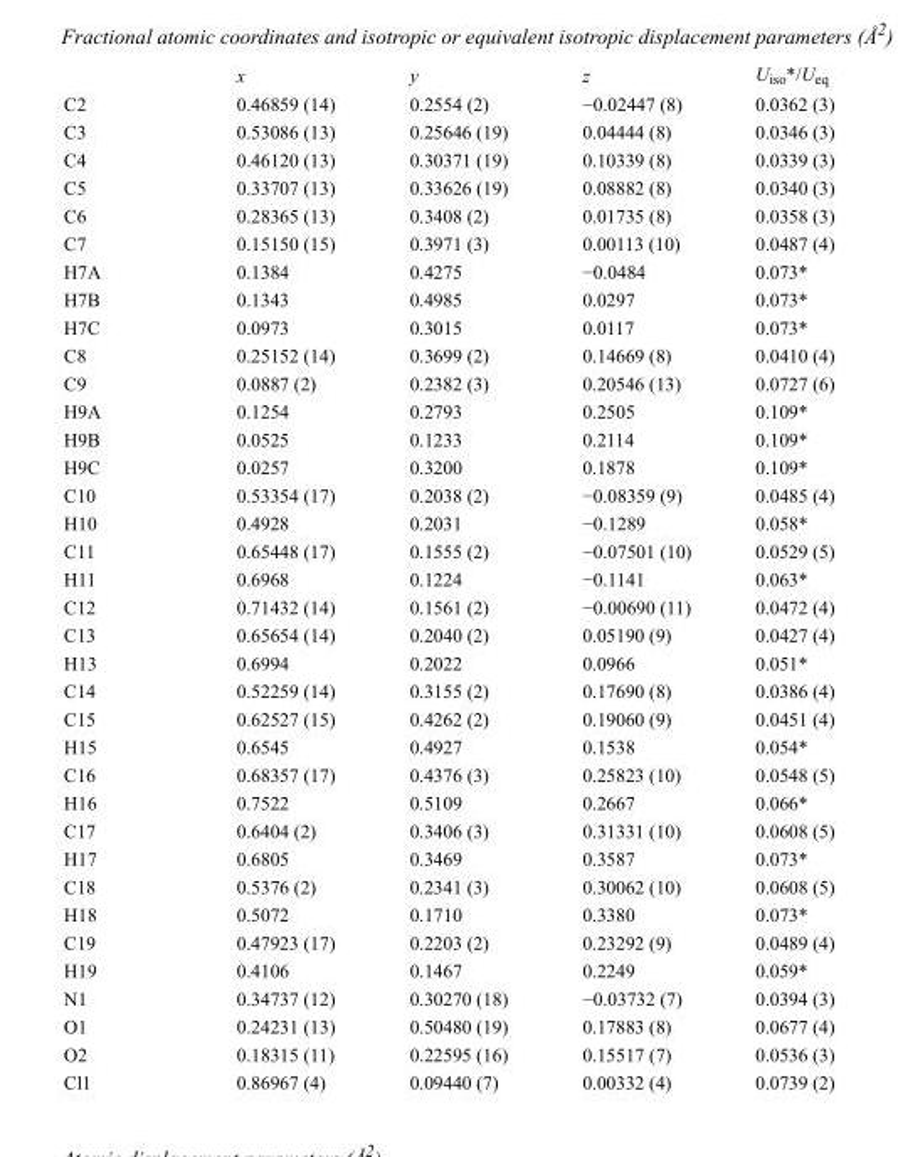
<table><thead><tr><td></td><td>x</td><td>y</td><td>z</td><td>U<sub>iso</sub>*/U<sub>eq</sub></td></tr></thead><tbody><tr><td>C2</td><td>0.46859 (14)</td><td>0.2554 (2)</td><td>−0.02447 (8)</td><td>0.0362 (3)</td></tr><tr><td>C3</td><td>0.53086 (13)</td><td>0.25646 (19)</td><td>0.04444 (8)</td><td>0.0346 (3)</td></tr><tr><td>C4</td><td>0.46120 (13)</td><td>0.30371 (19)</td><td>0.10339 (8)</td><td>0.0339 (3)</td></tr><tr><td>C5</td><td>0.33707 (13)</td><td>0.33626 (19)</td><td>0.08882 (8)</td><td>0.0340 (3)</td></tr><tr><td>C6</td><td>0.28365 (13)</td><td>0.3408 (2)</td><td>0.01735 (8)</td><td>0.0358 (3)</td></tr><tr><td>C7</td><td>0.15150 (15)</td><td>0.3971 (3)</td><td>0.00113 (10)</td><td>0.0487 (4)</td></tr><tr><td>H7A</td><td>0.1384</td><td>0.4275</td><td>−0.0484</td><td>0.073*</td></tr><tr><td>H7B</td><td>0.1343</td><td>0.4985</td><td>0.0297</td><td>0.073*</td></tr><tr><td>H7C</td><td>0.0973</td><td>0.3015</td><td>0.0117</td><td>0.073*</td></tr><tr><td>C8</td><td>0.25152 (14)</td><td>0.3699 (2)</td><td>0.14669 (8)</td><td>0.0410 (4)</td></tr><tr><td>C9</td><td>0.0887 (2)</td><td>0.2382 (3)</td><td>0.20546 (13)</td><td>0.0727 (6)</td></tr><tr><td>H9A</td><td>0.1254</td><td>0.2793</td><td>0.2505</td><td>0.109*</td></tr><tr><td>H9B</td><td>0.0525</td><td>0.1233</td><td>0.2114</td><td>0.109*</td></tr><tr><td>H9C</td><td>0.0257</td><td>0.3200</td><td>0.1878</td><td>0.109*</td></tr><tr><td>C10</td><td>0.53354 (17)</td><td>0.2038 (2)</td><td>−0.08359 (9)</td><td>0.0485 (4)</td></tr><tr><td>H10</td><td>0.4928</td><td>0.2031</td><td>−0.1289</td><td>0.058*</td></tr><tr><td>C11</td><td>0.65448 (17)</td><td>0.1555 (2)</td><td>−0.07501 (10)</td><td>0.0529 (5)</td></tr><tr><td>H11</td><td>0.6968</td><td>0.1224</td><td>−0.1141</td><td>0.063*</td></tr><tr><td>C12</td><td>0.71432 (14)</td><td>0.1561 (2)</td><td>−0.00690 (11)</td><td>0.0472 (4)</td></tr><tr><td>C13</td><td>0.65654 (14)</td><td>0.2040 (2)</td><td>0.05190 (9)</td><td>0.0427 (4)</td></tr><tr><td>H13</td><td>0.6994</td><td>0.2022</td><td>0.0966</td><td>0.051*</td></tr><tr><td>C14</td><td>0.52259 (14)</td><td>0.3155 (2)</td><td>0.17690 (8)</td><td>0.0386 (4)</td></tr><tr><td>C15</td><td>0.62527 (15)</td><td>0.4262 (2)</td><td>0.19060 (9)</td><td>0.0451 (4)</td></tr><tr><td>H15</td><td>0.6545</td><td>0.4927</td><td>0.1538</td><td>0.054*</td></tr><tr><td>C16</td><td>0.68357 (17)</td><td>0.4376 (3)</td><td>0.25823 (10)</td><td>0.0548 (5)</td></tr><tr><td>H16</td><td>0.7522</td><td>0.5109</td><td>0.2667</td><td>0.066*</td></tr><tr><td>C17</td><td>0.6404 (2)</td><td>0.3406 (3)</td><td>0.31331 (10)</td><td>0.0608 (5)</td></tr><tr><td>H17</td><td>0.6805</td><td>0.3469</td><td>0.3587</td><td>0.073*</td></tr><tr><td>C18</td><td>0.5376 (2)</td><td>0.2341 (3)</td><td>0.30062 (10)</td><td>0.0608 (5)</td></tr><tr><td>H18</td><td>0.5072</td><td>0.1710</td><td>0.3380</td><td>0.073*</td></tr><tr><td>C19</td><td>0.47923 (17)</td><td>0.2203 (2)</td><td>0.23292 (9)</td><td>0.0489 (4)</td></tr><tr><td>H19</td><td>0.4106</td><td>0.1467</td><td>0.2249</td><td>0.059*</td></tr><tr><td>N1</td><td>0.34737 (12)</td><td>0.30270 (18)</td><td>−0.03732 (7)</td><td>0.0394 (3)</td></tr><tr><td>O1</td><td>0.24231 (13)</td><td>0.50480 (19)</td><td>0.17883 (8)</td><td>0.0677 (4)</td></tr><tr><td>O2</td><td>0.18315 (11)</td><td>0.22595 (16)</td><td>0.15517 (7)</td><td>0.0536 (3)</td></tr><tr><td>Cl1</td><td>0.86967 (4)</td><td>0.09440 (7)</td><td>0.00332 (4)</td><td>0.0739 (2)</td></tr></tbody></table>